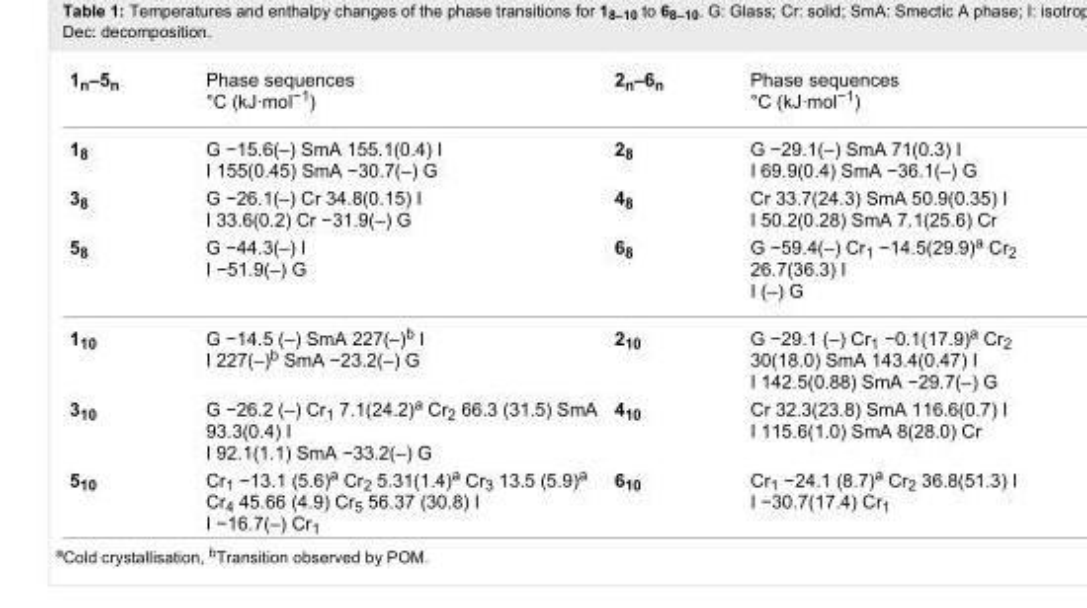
<table><tbody><tr><td>1<sub>n</sub>–5<sub>n</sub></td><td>Phase sequences °C (kJ·mol<sup>−1</sup>)</td><td>2<sub>n</sub>–6<sub>n</sub></td><td>Phase sequences °C (kJ·mol<sup>−1</sup>)</td></tr><tr><td>1<sub>8</sub></td><td>G −15.6(–) SmA 155.1(0.4) I I 155(0.45) SmA −30.7(–) G</td><td>2<sub>8</sub></td><td>G −29.1(–) SmA 71(0.3) I I 69.9(0.4) SmA −36.1(–) G</td></tr><tr><td>3<sub>8</sub></td><td>G −26.1(–) Cr 34.8(0.15) I I 33.6(0.2) Cr −31.9(–) G</td><td>4<sub>8</sub></td><td>Cr 33.7(24.3) SmA 50.9(0.35) I I 50.2(0.28) SmA 7.1(25.6) Cr</td></tr><tr><td>5<sub>8</sub></td><td>G −44.3(–) I I −51.9(–) G</td><td>6<sub>8</sub></td><td>G −59.4(–) Cr<sub>1</sub> −14.5(29.9)<sup>a</sup> Cr<sub>2</sub> 26.7(36.3) I I (–) G</td></tr><tr><td>1<sub>10</sub></td><td>G −14.5 (–) SmA 227(–)<sup>b</sup> I I 227(–)<sup>b</sup> SmA −23.2(–) G</td><td>2<sub>10</sub></td><td>G −29.1 (–) Cr<sub>1</sub> −0.1(17.9)<sup>a</sup> Cr<sub>2</sub> 30(18.0) SmA 143.4(0.47) I I 142.5(0.88) SmA −29.7(–) G</td></tr><tr><td>3<sub>10</sub></td><td>G −26.2 (–) Cr<sub>1</sub> 7.1(24.2)<sup>a</sup> Cr<sub>2</sub> 66.3 (31.5) SmA 93.3(0.4) I I 92.1(1.1) SmA −33.2(–) G</td><td>4<sub>10</sub></td><td>Cr 32.3(23.8) SmA 116.6(0.7) I I 115.6(1.0) SmA 8(28.0) Cr</td></tr><tr><td>5<sub>10</sub></td><td>Cr<sub>1</sub> −13.1 (5.6)<sup>a</sup> Cr<sub>2</sub> 5.31(1.4)<sup>a</sup> Cr<sub>3</sub> 13.5 (5.9)<sup>a</sup> Cr<sub>4</sub> 45.66 (4.9) Cr<sub>5</sub> 56.37 (30.8) I I −16.7(–) Cr<sub>1</sub></td><td>6<sub>10</sub></td><td>Cr<sub>1</sub> −24.1 (8.7)<sup>a</sup> Cr<sub>2</sub> 36.8(51.3) I I −30.7(17.4) Cr<sub>1</sub></td></tr></tbody></table>